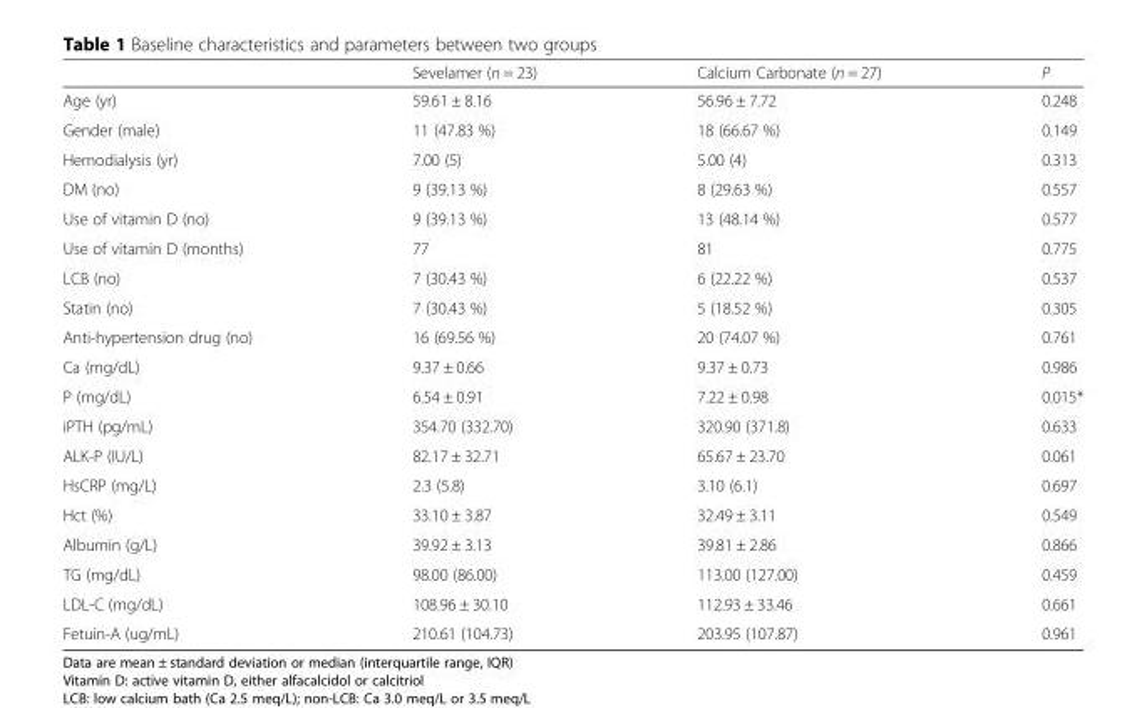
<table><thead><tr><td></td><td>Sevelamer (n = 23)</td><td>Calcium Carbonate (n = 27)</td><td>P</td></tr></thead><tbody><tr><td>Age (yr)</td><td>59.61 ± 8.16</td><td>56.96 ± 7.72</td><td>0.248</td></tr><tr><td>Gender (male)</td><td>11 (47.83 %)</td><td>18 (66.67 %)</td><td>0.149</td></tr><tr><td>Hemodialysis (yr)</td><td>7.00 (5)</td><td>5.00 (4)</td><td>0.313</td></tr><tr><td>DM (no)</td><td>9 (39.13 %)</td><td>8 (29.63 %)</td><td>0.557</td></tr><tr><td>Use of vitamin D (no)</td><td>9 (39.13 %)</td><td>13 (48.14 %)</td><td>0.577</td></tr><tr><td>Use of vitamin D (months)</td><td>77</td><td>81</td><td>0.775</td></tr><tr><td>LCB (no)</td><td>7 (30.43 %)</td><td>6 (22.22 %)</td><td>0.537</td></tr><tr><td>Statin (no)</td><td>7 (30.43 %)</td><td>5 (18.52 %)</td><td>0.305</td></tr><tr><td>Anti-hypertension drug (no)</td><td>16 (69.56 %)</td><td>20 (74.07 %)</td><td>0.761</td></tr><tr><td>Ca (mg/dL)</td><td>9.37 ± 0.66</td><td>9.37 ± 0.73</td><td>0.986</td></tr><tr><td>P (mg/dL)</td><td>6.54 ± 0.91</td><td>7.22 ± 0.98</td><td>0.015*</td></tr><tr><td>iPTH (pg/mL)</td><td>354.70 (332.70)</td><td>320.90 (371.8)</td><td>0.633</td></tr><tr><td>ALK-P (IU/L)</td><td>82.17 ± 32.71</td><td>65.67 ± 23.70</td><td>0.061</td></tr><tr><td>HsCRP (mg/L)</td><td>2.3 (5.8)</td><td>3.10 (6.1)</td><td>0.697</td></tr><tr><td>Hct (%)</td><td>33.10 ± 3.87</td><td>32.49 ± 3.11</td><td>0.549</td></tr><tr><td>Albumin (g/L)</td><td>39.92 ± 3.13</td><td>39.81 ± 2.86</td><td>0.866</td></tr><tr><td>TG (mg/dL)</td><td>98.00 (86.00)</td><td>113.00 (127.00)</td><td>0.459</td></tr><tr><td>LDL-C (mg/dL)</td><td>108.96 ± 30.10</td><td>112.93 ± 33.46</td><td>0.661</td></tr><tr><td>Fetuin-A (ug/mL)</td><td>210.61 (104.73)</td><td>203.95 (107.87)</td><td>0.961</td></tr></tbody></table>